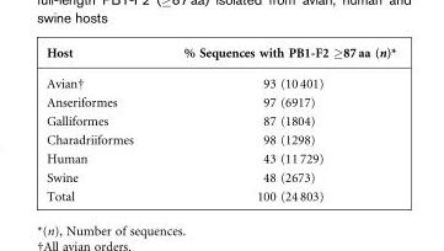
<table><thead><tr><td>Host</td><td>% Sequences with PB1-F2 ≥87 aa (n)*</td></tr></thead><tbody><tr><td>Avian†</td><td>93 (10 401)</td></tr><tr><td>Anseriformes</td><td>97 (6917)</td></tr><tr><td>Galliformes</td><td>87 (1804)</td></tr><tr><td>Charadriiformes</td><td>98 (1298)</td></tr><tr><td>Human</td><td>43 (11 729)</td></tr><tr><td>Swine</td><td>48 (2673)</td></tr><tr><td>Total</td><td>100 (24 803)</td></tr></tbody></table>